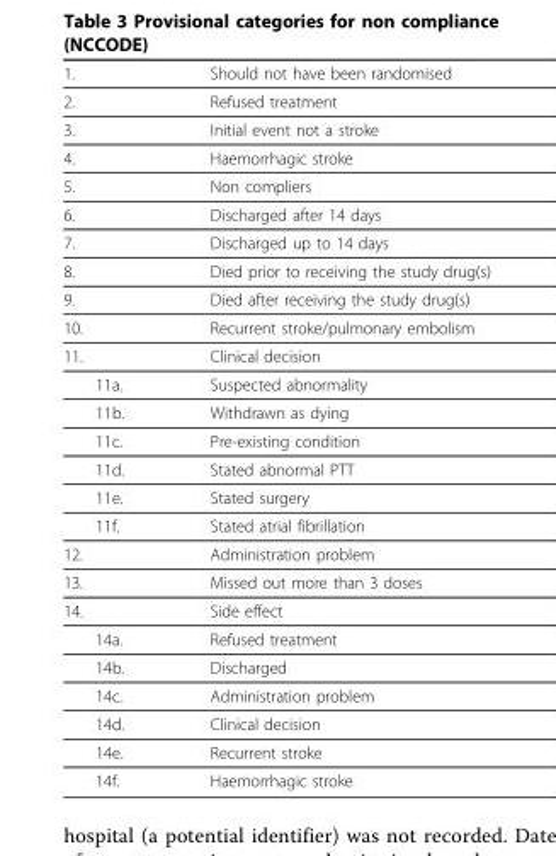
<table><thead><tr><td>1.</td><td>Should not have been randomised</td></tr></thead><tbody><tr><td>2.</td><td>Refused treatment</td></tr><tr><td>3.</td><td>Initial event not a stroke</td></tr><tr><td>4.</td><td>Haemorrhagic stroke</td></tr><tr><td>5.</td><td>Non compliers</td></tr><tr><td>6.</td><td>Discharged after 14 days</td></tr><tr><td>7.</td><td>Discharged up to 14 days</td></tr><tr><td>8.</td><td>Died prior to receiving the study drug(s)</td></tr><tr><td>9.</td><td>Died after receiving the study drug(s)</td></tr><tr><td>10.</td><td>Recurrent stroke/pulmonary embolism</td></tr><tr><td>11.</td><td>Clinical decision</td></tr><tr><td>11a.</td><td>Suspected abnormality</td></tr><tr><td>11b.</td><td>Withdrawn as dying</td></tr><tr><td>11c.</td><td>Pre-existing condition</td></tr><tr><td>11d.</td><td>Stated abnormal PTT</td></tr><tr><td>11e.</td><td>Stated surgery</td></tr><tr><td>11f.</td><td>Stated atrial fibrillation</td></tr><tr><td>12.</td><td>Administration problem</td></tr><tr><td>13.</td><td>Missed out more than 3 doses</td></tr><tr><td>14.</td><td>Side effect</td></tr><tr><td>14a.</td><td>Refused treatment</td></tr><tr><td>14b.</td><td>Discharged</td></tr><tr><td>14c.</td><td>Administration problem</td></tr><tr><td>14d.</td><td>Clinical decision</td></tr><tr><td>14e.</td><td>Recurrent stroke</td></tr><tr><td>14f.</td><td>Haemorrhagic stroke</td></tr></tbody></table>